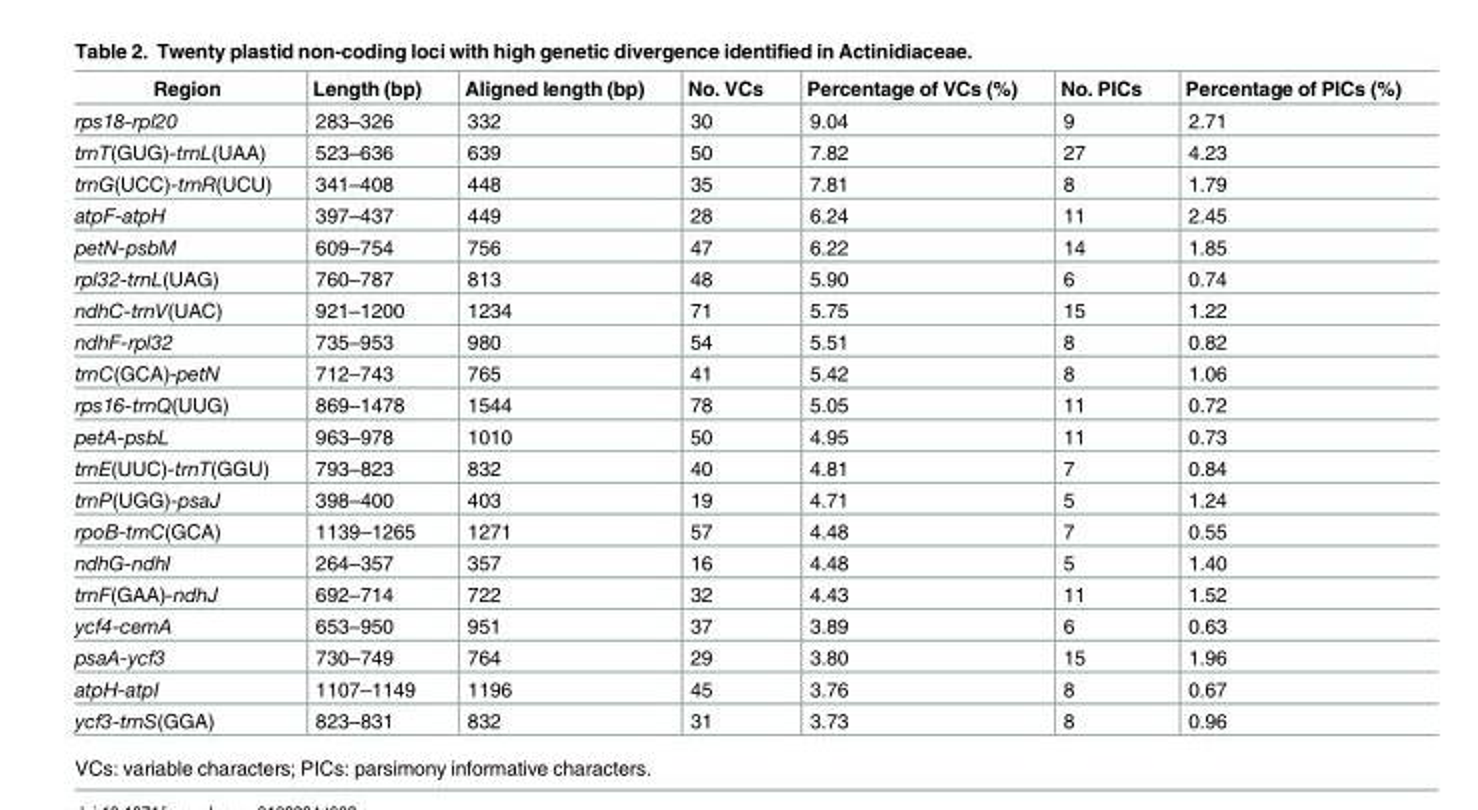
<table><thead><tr><td>Region</td><td>Length (bp)</td><td>Aligned length (bp)</td><td>No. VCs</td><td>Percentage of VCs (%)</td><td>No. PICs</td><td>Percentage of PICs (%)</td></tr></thead><tbody><tr><td>rps18-rpl20</td><td>283–326</td><td>332</td><td>30</td><td>9.04</td><td>9</td><td>2.71</td></tr><tr><td>trnT(GUG)-trnL(UAA)</td><td>523–636</td><td>639</td><td>50</td><td>7.82</td><td>27</td><td>4.23</td></tr><tr><td>trnG(UCC)-trnR(UCU)</td><td>341–408</td><td>448</td><td>35</td><td>7.81</td><td>8</td><td>1.79</td></tr><tr><td>atpF-atpH</td><td>397–437</td><td>449</td><td>28</td><td>6.24</td><td>11</td><td>2.45</td></tr><tr><td>petN-psbM</td><td>609–754</td><td>756</td><td>47</td><td>6.22</td><td>14</td><td>1.85</td></tr><tr><td>rpl32-trnL(UAG)</td><td>760–787</td><td>813</td><td>48</td><td>5.90</td><td>6</td><td>0.74</td></tr><tr><td>ndhC-trnV(UAC)</td><td>921–1200</td><td>1234</td><td>71</td><td>5.75</td><td>15</td><td>1.22</td></tr><tr><td>ndhF-rpl32</td><td>735–953</td><td>980</td><td>54</td><td>5.51</td><td>8</td><td>0.82</td></tr><tr><td>trnC(GCA)-petN</td><td>712–743</td><td>765</td><td>41</td><td>5.42</td><td>8</td><td>1.06</td></tr><tr><td>rps16-trnQ(UUG)</td><td>869–1478</td><td>1544</td><td>78</td><td>5.05</td><td>11</td><td>0.72</td></tr><tr><td>petA-psbL</td><td>963–978</td><td>1010</td><td>50</td><td>4.95</td><td>11</td><td>0.73</td></tr><tr><td>trnE(UUC)-trnT(GGU)</td><td>793–823</td><td>832</td><td>40</td><td>4.81</td><td>7</td><td>0.84</td></tr><tr><td>trnP(UGG)-psaJ</td><td>398–400</td><td>403</td><td>19</td><td>4.71</td><td>5</td><td>1.24</td></tr><tr><td>rpoB-trnC(GCA)</td><td>1139–1265</td><td>1271</td><td>57</td><td>4.48</td><td>7</td><td>0.55</td></tr><tr><td>ndhG-ndhI</td><td>264–357</td><td>357</td><td>16</td><td>4.48</td><td>5</td><td>1.40</td></tr><tr><td>trnF(GAA)-ndhJ</td><td>692–714</td><td>722</td><td>32</td><td>4.43</td><td>11</td><td>1.52</td></tr><tr><td>ycf4-cemA</td><td>653–950</td><td>951</td><td>37</td><td>3.89</td><td>6</td><td>0.63</td></tr><tr><td>psaA-ycf3</td><td>730–749</td><td>764</td><td>29</td><td>3.80</td><td>15</td><td>1.96</td></tr><tr><td>atpH-atpI</td><td>1107–1149</td><td>1196</td><td>45</td><td>3.76</td><td>8</td><td>0.67</td></tr><tr><td>ycf3-trnS(GGA)</td><td>823–831</td><td>832</td><td>31</td><td>3.73</td><td>8</td><td>0.96</td></tr></tbody></table>